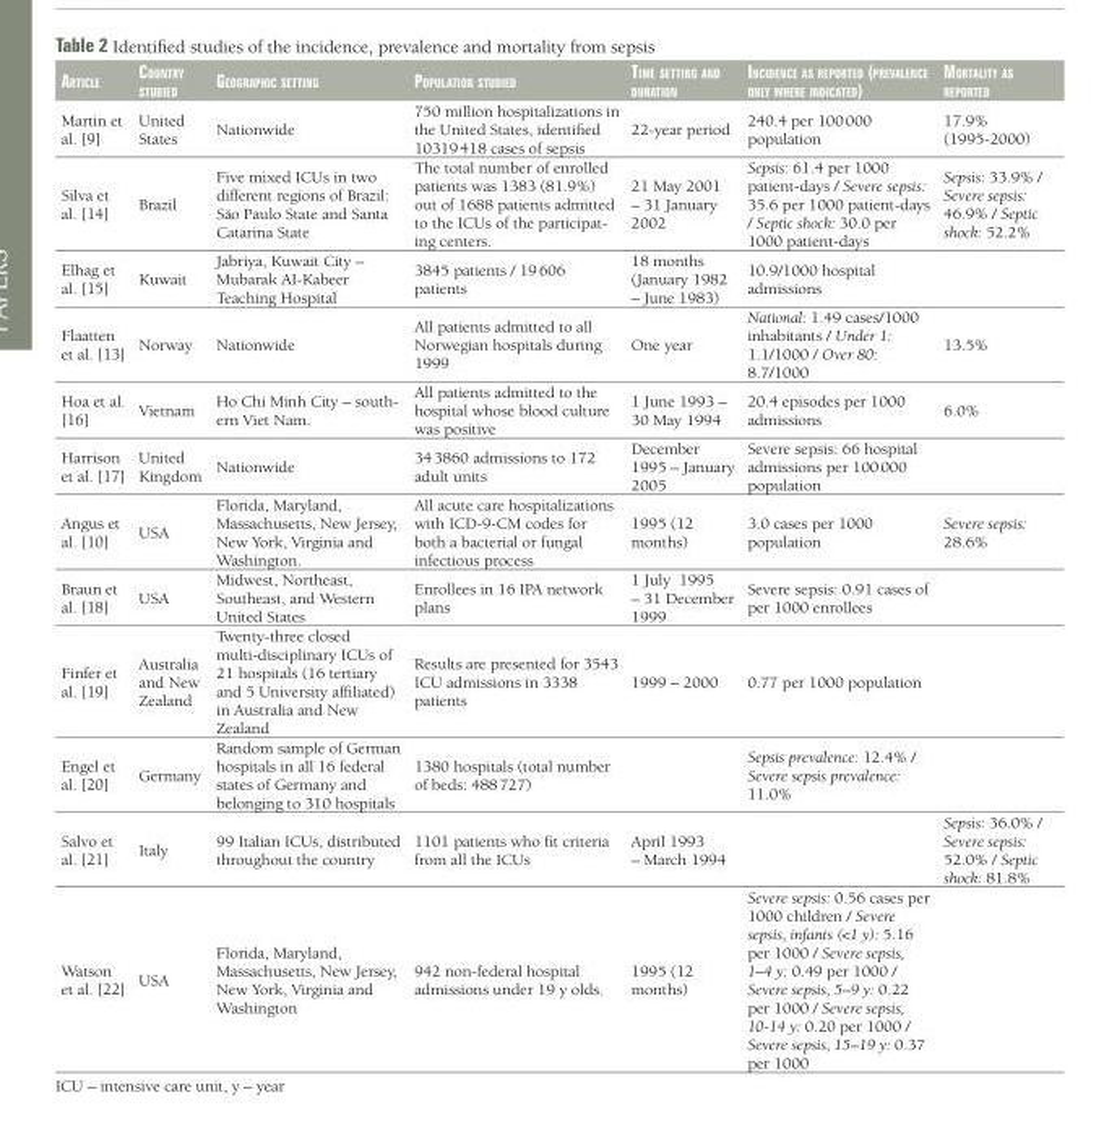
<table><thead><tr><td>article</td><td>cOuntry stuDieD</td><td>geOgraphic setting</td><td>pOpulatiOn stuDieD</td><td>time setting anD DuratiOn</td><td>inciDence as repOrteD (prevalence Only where inDicateD)</td><td>mOrtality as repOrteD</td></tr></thead><tbody><tr><td>Martin et al. [9]</td><td>United States</td><td>Nationwide</td><td>750 million hospitalizations in the United States, identified 10319 418 cases of sepsis</td><td>22-year period</td><td>240.4 per 100 000 population</td><td>17.9% (1995-2000)</td></tr><tr><td>Silva et al. [14]</td><td>Brazil</td><td>Five mixed ICUs in two different regions of Brazil: Sa˘o Paulo State and Santa Catarina State</td><td>The total number of enrolled patients was 1383 (81.9%) out of 1688 patients admitted to the ICUs of the participat- ing centers.</td><td>21 May 2001 – 31 January 2002</td><td>Sepsis: 61.4 per 1000 patient-days / Severe sepsis: 35.6 per 1000 patient-days / Septic shock: 30.0 per 1000 patient-days</td><td>Sepsis: 33.9% / Severe sepsis: 46.9% / Septic shock: 52.2%</td></tr><tr><td>Elhag et al. [15]</td><td>Kuwait</td><td>Jabriya, Kuwait City – Mubarak AI-Kabeer Teaching Hospital</td><td>3845 patients / 19 606 patients</td><td>18 months (January 1982 – June 1983)</td><td>10.9/1000 hospital admissions</td><td></td></tr><tr><td>Flaatten et al. [13]</td><td>Norway</td><td>Nationwide</td><td>All patients admitted to all Norwegian hospitals during 1999</td><td>One year</td><td>National: 1.49 cases/1000 inhabitants / Under 1: 1.1/1000 / Over 80: 8.7/1000</td><td>13.5%</td></tr><tr><td>Hoa et al. [16]</td><td>Vietnam</td><td>Ho Chi Minh City – south- ern Viet Nam.</td><td>All patients admitted to the hospital whose blood culture was positive</td><td>1 June 1993 – 30 May 1994</td><td>20.4 episodes per 1000 admissions</td><td>6.0%</td></tr><tr><td>Harrison et al. [17]</td><td>United Kingdom</td><td>Nationwide</td><td>34 3860 admissions to 172 adult units</td><td>December 1995 – January 2005</td><td>Severe sepsis: 66 hospital admissions per 100 000 population</td><td></td></tr><tr><td>Angus et al. [10]</td><td>USA</td><td>Florida, Maryland, Massachusetts, New Jersey, New York, Virginia and Washington.</td><td>All acute care hospitalizations with ICD-9-CM codes for both a bacterial or fungal infectious process</td><td>1995 (12 months)</td><td>3.0 cases per 1000 population</td><td>Severe sepsis: 28.6%</td></tr><tr><td>Braun et al. [18]</td><td>USA</td><td>Midwest, Northeast, Southeast, and Western United States</td><td>Enrollees in 16 IPA network plans</td><td>1 July 1995 – 31 December 1999</td><td>Severe sepsis: 0.91 cases of per 1000 enrollees</td><td></td></tr><tr><td>Finfer et al. [19]</td><td>Australia and New Zealand</td><td>Twenty-three closed multi-disciplinary ICUs of 21 hospitals (16 tertiary and 5 University affiliated) in Australia and New Zealand</td><td>Results are presented for 3543 ICU admissions in 3338 patients</td><td>1999 – 2000</td><td>0.77 per 1000 population</td><td></td></tr><tr><td>Engel et al. [20]</td><td>Germany</td><td>Random sample of German hospitals in all 16 federal states of Germany and belonging to 310 hospitals</td><td>1380 hospitals (total number of beds: 488 727)</td><td></td><td>Sepsis prevalence: 12.4% / Severe sepsis prevalence: 11.0%</td><td></td></tr><tr><td>Salvo et al. [21]</td><td>Italy</td><td>99 Italian ICUs, distributed throughout the country</td><td>1101 patients who fit criteria from all the ICUs</td><td>April 1993 – March 1994</td><td></td><td>Sepsis: 36.0% / Severe sepsis: 52.0% / Septic shock: 81.8%</td></tr><tr><td>Watson et al. [22]</td><td>USA</td><td>Florida, Maryland, Massachusetts, New Jersey, New York, Virginia and Washington</td><td>942 non-federal hospital admissions under 19 y olds.</td><td>1995 (12 months)</td><td>Severe sepsis: 0.56 cases per 1000 children / Severe sepsis, infants (&lt;1 y): 5.16 per 1000 / Severe sepsis, 1–4 y: 0.49 per 1000 / Severe sepsis, 5–9 y: 0.22 per 1000 / Severe sepsis, 10-14 y: 0.20 per 1000 / Severe sepsis, 15–19 y: 0.37 per 1000</td><td></td></tr></tbody></table>